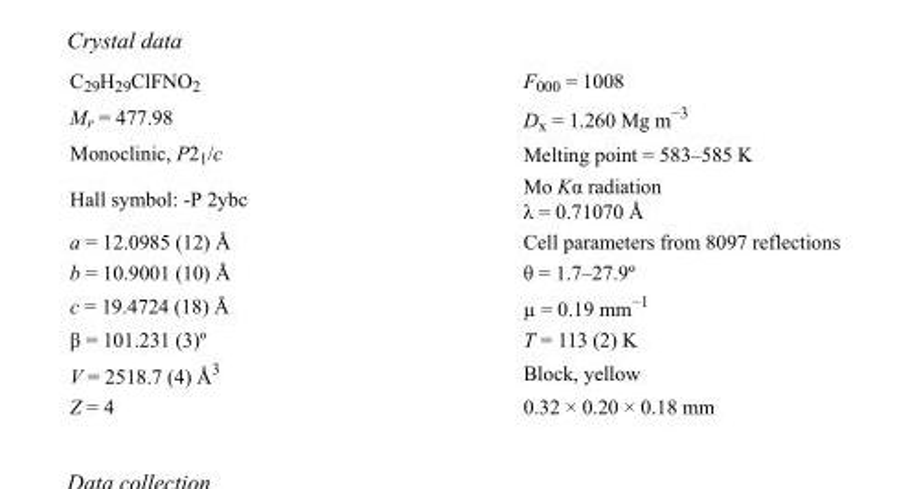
<table><tbody><tr><td>C<sub>29</sub>H<sub>29</sub>ClFNO<sub>2</sub></td><td>F<sub>000</sub> = 1008</td></tr><tr><td>M<sub>r</sub> = 477.98</td><td>D<sub>x</sub> = 1.260 Mg m<sup>−3</sup></td></tr><tr><td>Monoclinic, P2<sub>1</sub>/c</td><td>Melting point = 583–585 K</td></tr><tr><td>Hall symbol: -P 2ybc</td><td>Mo Kα radiation λ = 0.71070 Å</td></tr><tr><td>a = 12.0985 (12) Å</td><td>Cell parameters from 8097 reflections</td></tr><tr><td>b = 10.9001 (10) Å</td><td>θ = 1.7–27.9º</td></tr><tr><td>c = 19.4724 (18) Å</td><td>µ = 0.19 mm<sup>−1</sup></td></tr><tr><td>β = 101.231 (3)º</td><td>T = 113 (2) K</td></tr><tr><td>V = 2518.7 (4) Å<sup>3</sup></td><td>Block, yellow</td></tr><tr><td>Z = 4</td><td>0.32 × 0.20 × 0.18 mm</td></tr></tbody></table>